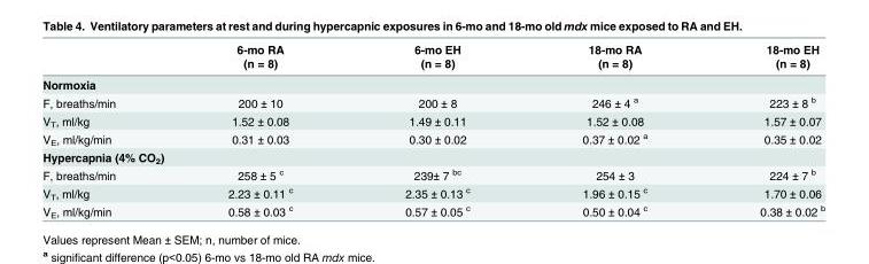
<table><thead><tr><td rowspan="2"></td><td rowspan="2">6-mo RA (n = 8)</td><td rowspan="2">6-mo EH (n = 8)</td><td rowspan="2">18-mo RA (n = 8)</td><td rowspan="2">18-mo EH (n = 8)</td></tr><tr></tr></thead><tbody><tr><td colspan="5">Normoxia</td></tr><tr><td>F, breaths/min</td><td>200 ± 10</td><td>200 ± 8</td><td>246 ± 4 <sup>a</sup></td><td>223 ± 8 <sup>b</sup></td></tr><tr><td>V<sub>T</sub>, ml/kg</td><td>1.52 ± 0.08</td><td>1.49 ± 0.11</td><td>1.52 ± 0.08</td><td>1.57 ± 0.07</td></tr><tr><td>V<sub>E</sub>, ml/kg/min</td><td>0.31 ± 0.03</td><td>0.30 ± 0.02</td><td>0.37 ± 0.02 <sup>a</sup></td><td>0.35 ± 0.02</td></tr><tr><td colspan="5">Hypercapnia (4% CO<sub>2</sub>)</td></tr><tr><td>F, breaths/min</td><td>258 ± 5 <sup>c</sup></td><td>239± 7 <sup>bc</sup></td><td>254 ± 3</td><td>224 ± 7 <sup>b</sup></td></tr><tr><td>V<sub>T</sub>, ml/kg</td><td>2.23 ± 0.11 <sup>c</sup></td><td>2.35 ± 0.13 <sup>c</sup></td><td>1.96 ± 0.15 <sup>c</sup></td><td>1.70 ± 0.06</td></tr><tr><td>V<sub>E</sub>, ml/kg/min</td><td>0.58 ± 0.03 <sup>c</sup></td><td>0.57 ± 0.05 <sup>c</sup></td><td>0.50 ± 0.04 <sup>c</sup></td><td>0.38 ± 0.02 <sup>b</sup></td></tr></tbody></table>